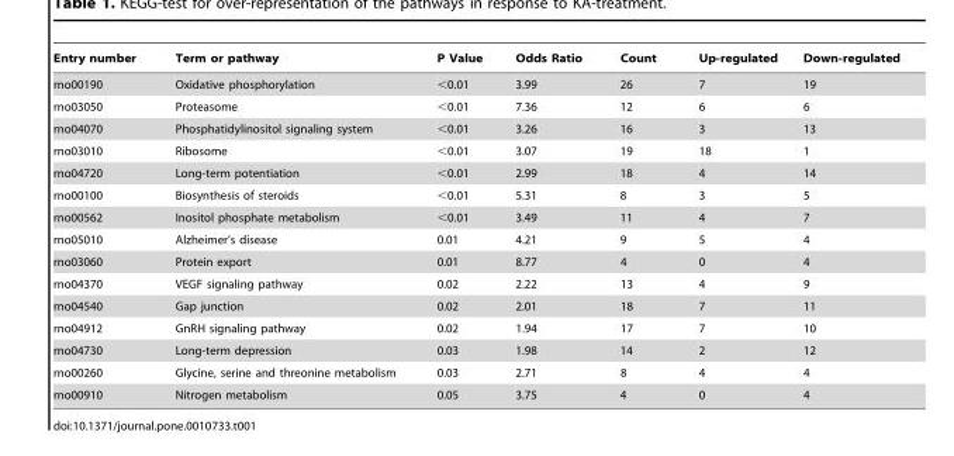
<table><thead><tr><td>Entry number</td><td>Term or pathway</td><td>P Value</td><td>Odds Ratio</td><td>Count</td><td>Up-regulated</td><td>Down-regulated</td></tr></thead><tbody><tr><td>rno00190</td><td>Oxidative phosphorylation</td><td>&lt;0.01</td><td>3.99</td><td>26</td><td>7</td><td>19</td></tr><tr><td>rno03050</td><td>Proteasome</td><td>&lt;0.01</td><td>7.36</td><td>12</td><td>6</td><td>6</td></tr><tr><td>rno04070</td><td>Phosphatidylinositol signaling system</td><td>&lt;0.01</td><td>3.26</td><td>16</td><td>3</td><td>13</td></tr><tr><td>rno03010</td><td>Ribosome</td><td>&lt;0.01</td><td>3.07</td><td>19</td><td>18</td><td>1</td></tr><tr><td>rno04720</td><td>Long-term potentiation</td><td>&lt;0.01</td><td>2.99</td><td>18</td><td>4</td><td>14</td></tr><tr><td>rno00100</td><td>Biosynthesis of steroids</td><td>&lt;0.01</td><td>5.31</td><td>8</td><td>3</td><td>5</td></tr><tr><td>rno00562</td><td>Inositol phosphate metabolism</td><td>&lt;0.01</td><td>3.49</td><td>11</td><td>4</td><td>7</td></tr><tr><td>rno05010</td><td>Alzheimer’s disease</td><td>0.01</td><td>4.21</td><td>9</td><td>5</td><td>4</td></tr><tr><td>rno03060</td><td>Protein export</td><td>0.01</td><td>8.77</td><td>4</td><td>0</td><td>4</td></tr><tr><td>rno04370</td><td>VEGF signaling pathway</td><td>0.02</td><td>2.22</td><td>13</td><td>4</td><td>9</td></tr><tr><td>rno04540</td><td>Gap junction</td><td>0.02</td><td>2.01</td><td>18</td><td>7</td><td>11</td></tr><tr><td>rno04912</td><td>GnRH signaling pathway</td><td>0.02</td><td>1.94</td><td>17</td><td>7</td><td>10</td></tr><tr><td>rno04730</td><td>Long-term depression</td><td>0.03</td><td>1.98</td><td>14</td><td>2</td><td>12</td></tr><tr><td>rno00260</td><td>Glycine, serine and threonine metabolism</td><td>0.03</td><td>2.71</td><td>8</td><td>4</td><td>4</td></tr><tr><td>rno00910</td><td>Nitrogen metabolism</td><td>0.05</td><td>3.75</td><td>4</td><td>0</td><td>4</td></tr></tbody></table>